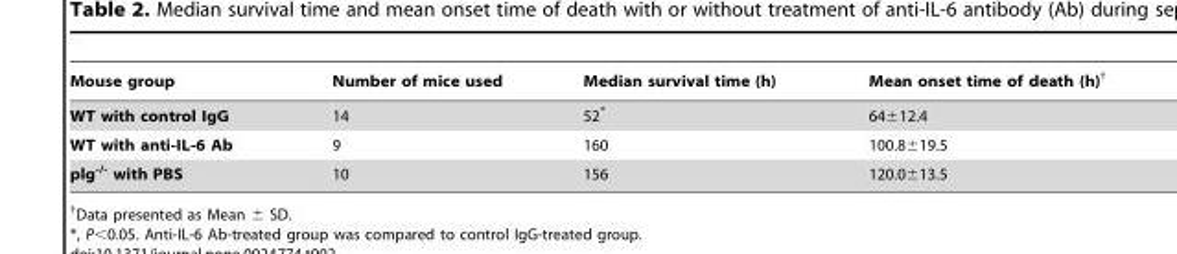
<table><thead><tr><td>Mouse group</td><td>Number of mice used</td><td>Median survival time (h)</td><td>Mean onset time of death (h)†</td></tr></thead><tbody><tr><td>WT with control IgG</td><td>14</td><td>52*</td><td>64±12.4</td></tr><tr><td>WT with anti-IL-6 Ab</td><td>9</td><td>160</td><td>100.8±19.5</td></tr><tr><td>plg<sup>-/-</sup> with PBS</td><td>10</td><td>156</td><td>120.0±13.5</td></tr></tbody></table>